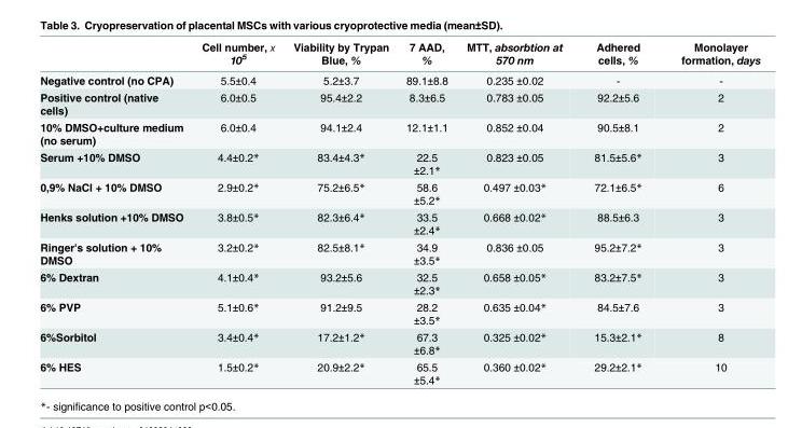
<table><thead><tr><td></td><td>Cell number, х 10<sup>5</sup></td><td>Viability by Trypan Blue, %</td><td>7 AAD, %</td><td>MTT, absorbtion at 570 nm</td><td>Adhered cells, %</td><td>Monolayer formation, days</td></tr></thead><tbody><tr><td>Negative control (no CPA)</td><td>5.5±0.4</td><td>5.2±3.7</td><td>89.1±8.8</td><td>0.235 ±0.02</td><td>-</td><td>-</td></tr><tr><td>Positive control (native cells)</td><td>6.0±0.5</td><td>95.4±2.2</td><td>8.3±6.5</td><td>0.783 ±0.05</td><td>92.2±5.6</td><td>2</td></tr><tr><td>10% DMSO+culture medium (no serum)</td><td>6.0±0.4</td><td>94.1±2.4</td><td>12.1±1.1</td><td>0.852 ±0.04</td><td>90.5±8.1</td><td>2</td></tr><tr><td>Serum +10% DMSO</td><td>4.4±0.2*</td><td>83.4±4.3*</td><td>22.5 ±2.1*</td><td>0.823 ±0.05</td><td>81.5±5.6*</td><td>3</td></tr><tr><td>0,9% NaCl + 10% DMSO</td><td>2.9±0.2*</td><td>75.2±6.5*</td><td>58.6 ±5.2*</td><td>0.497 ±0.03*</td><td>72.1±6.5*</td><td>6</td></tr><tr><td>Henks solution +10% DMSO</td><td>3.8±0.5*</td><td>82.3±6.4*</td><td>33.5 ±2.4*</td><td>0.668 ±0.02*</td><td>88.5±6.3</td><td>3</td></tr><tr><td>Ringer&#x27;s solution + 10% DMSO</td><td>3.2±0.2*</td><td>82.5±8.1*</td><td>34.9 ±3.5*</td><td>0.836 ±0.05</td><td>95.2±7.2*</td><td>3</td></tr><tr><td>6% Dextran</td><td>4.1±0.4*</td><td>93.2±5.6</td><td>32.5 ±2.3*</td><td>0.658 ±0.05*</td><td>83.2±7.5*</td><td>3</td></tr><tr><td>6% PVP</td><td>5.1±0.6*</td><td>91.2±9.5</td><td>28.2 ±3.5*</td><td>0.635 ±0.04*</td><td>84.5±7.6</td><td>3</td></tr><tr><td>6%Sorbitol</td><td>3.4±0.4*</td><td>17.2±1.2*</td><td>67.3 ±6.8*</td><td>0.325 ±0.02*</td><td>15.3±2.1*</td><td>8</td></tr><tr><td>6% HES</td><td>1.5±0.2*</td><td>20.9±2.2*</td><td>65.5 ±5.4*</td><td>0.360 ±0.02*</td><td>29.2±2.1*</td><td>10</td></tr></tbody></table>